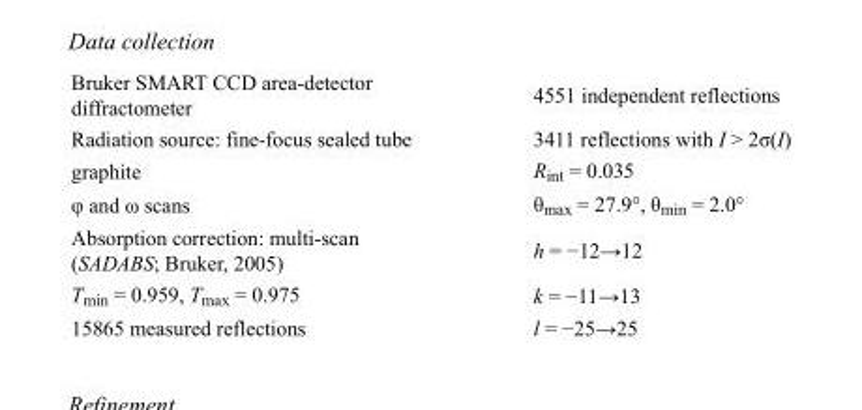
<table><tbody><tr><td>Bruker SMART CCD area-detector diffractometer</td><td>4551 independent reflections</td></tr><tr><td>Radiation source: fine-focus sealed tube</td><td>3411 reflections with I &gt; 2σ(I)</td></tr><tr><td>graphite</td><td>R<sub>int</sub> = 0.035</td></tr><tr><td>φ and ω scans</td><td>θ<sub>max</sub> = 27.9°, θ<sub>min</sub> = 2.0°</td></tr><tr><td>Absorption correction: multi-scan (SADABS; Bruker, 2005)</td><td>h = −12→12</td></tr><tr><td>T<sub>min</sub> = 0.959, T<sub>max</sub> = 0.975</td><td>k = −11→13</td></tr><tr><td>15865 measured reflections</td><td>l = −25→25</td></tr></tbody></table>